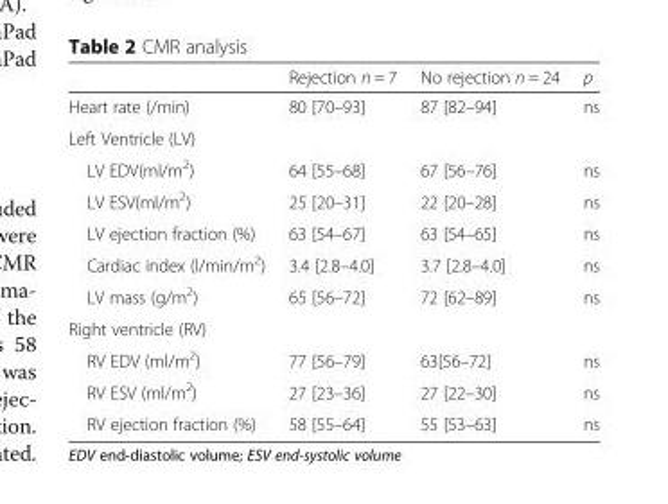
<table><thead><tr><td></td><td>Rejection n = 7</td><td>No rejection n = 24</td><td>p</td></tr></thead><tbody><tr><td>Heart rate (/min)</td><td>80 [70–93]</td><td>87 [82–94]</td><td>ns</td></tr><tr><td colspan="4">Left Ventricle (LV)</td></tr><tr><td>LV EDV(ml/m<sup>2</sup>)</td><td>64 [55–68]</td><td>67 [56–76]</td><td>ns</td></tr><tr><td>LV ESV(ml/m<sup>2</sup>)</td><td>25 [20–31]</td><td>22 [20–28]</td><td>ns</td></tr><tr><td>LV ejection fraction (%)</td><td>63 [54–67]</td><td>63 [54–65]</td><td>ns</td></tr><tr><td>Cardiac index (l/min/m<sup>2</sup>)</td><td>3.4 [2.8–4.0]</td><td>3.7 [2.8–4.0]</td><td>ns</td></tr><tr><td>LV mass (g/m<sup>2</sup>)</td><td>65 [56–72]</td><td>72 [62–89]</td><td>ns</td></tr><tr><td colspan="4">Right ventricle (RV)</td></tr><tr><td>RV EDV (ml/m<sup>2</sup>)</td><td>77 [56–79]</td><td>63[56–72]</td><td>ns</td></tr><tr><td>RV ESV (ml/m<sup>2</sup>)</td><td>27 [23–36]</td><td>27 [22–30]</td><td>ns</td></tr><tr><td>RV ejection fraction (%)</td><td>58 [55–64]</td><td>55 [53–63]</td><td>ns</td></tr></tbody></table>